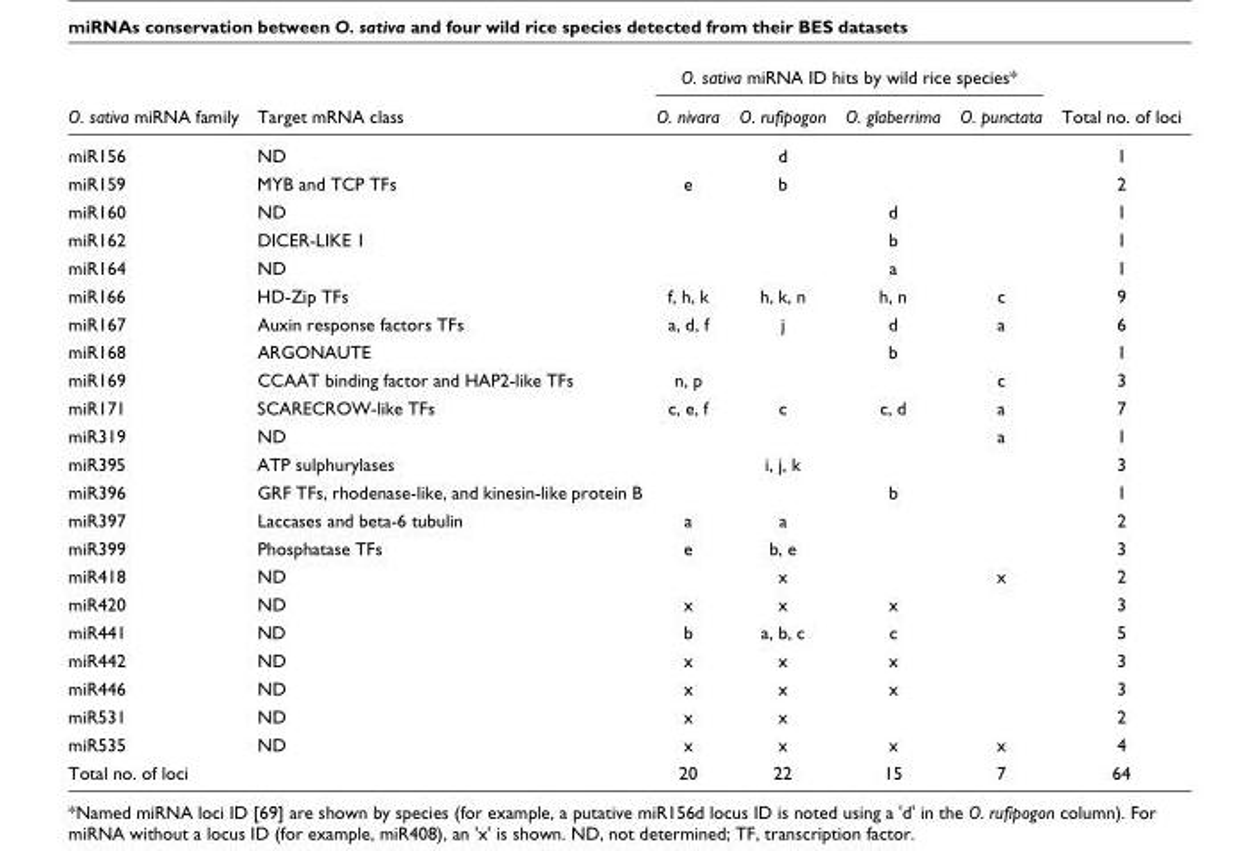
<table><thead><tr><td rowspan="2">O. sativa miRNA family</td><td rowspan="2">Target mRNA class</td><td colspan="4">O. sativa miRNA ID hits by wild rice species*</td><td rowspan="2">Total no. of loci</td></tr><tr><td>O. nivara</td><td>O. rufipogon</td><td>O. glaberrima</td><td>O. punctata</td></tr></thead><tbody><tr><td>miR156</td><td>ND</td><td></td><td>d</td><td></td><td></td><td>1</td></tr><tr><td>miR159</td><td>MYB and TCP TFs</td><td>e</td><td>b</td><td></td><td></td><td>2</td></tr><tr><td>miR160</td><td>ND</td><td></td><td></td><td>d</td><td></td><td>1</td></tr><tr><td>miR162</td><td>DICER-LIKE 1</td><td></td><td></td><td>b</td><td></td><td>1</td></tr><tr><td>miR164</td><td>ND</td><td></td><td></td><td>a</td><td></td><td>1</td></tr><tr><td>miR166</td><td>HD-Zip TFs</td><td>f, h, k</td><td>h, k, n</td><td>h, n</td><td>c</td><td>9</td></tr><tr><td>miR167</td><td>Auxin response factors TFs</td><td>a, d, f</td><td>j</td><td>d</td><td>a</td><td>6</td></tr><tr><td>miR168</td><td>ARGONAUTE</td><td></td><td></td><td>b</td><td></td><td>1</td></tr><tr><td>miR169</td><td>CCAAT binding factor and HAP2-like TFs</td><td>n, p</td><td></td><td></td><td>c</td><td>3</td></tr><tr><td>miR171</td><td>SCARECROW-like TFs</td><td>c, e, f</td><td>c</td><td>c, d</td><td>a</td><td>7</td></tr><tr><td>miR319</td><td>ND</td><td></td><td></td><td></td><td>a</td><td>1</td></tr><tr><td>miR395</td><td>ATP sulphurylases</td><td></td><td>i, j, k</td><td></td><td></td><td>3</td></tr><tr><td>miR396</td><td>GRF TFs, rhodenase-like, and kinesin-like protein B</td><td></td><td></td><td>b</td><td></td><td>1</td></tr><tr><td>miR397</td><td>Laccases and beta-6 tubulin</td><td>a</td><td>a</td><td></td><td></td><td>2</td></tr><tr><td>miR399</td><td>Phosphatase TFs</td><td>e</td><td>b, e</td><td></td><td></td><td>3</td></tr><tr><td>miR418</td><td>ND</td><td></td><td>x</td><td></td><td>x</td><td>2</td></tr><tr><td>miR420</td><td>ND</td><td>x</td><td>x</td><td>x</td><td></td><td>3</td></tr><tr><td>miR441</td><td>ND</td><td>b</td><td>a, b, c</td><td>c</td><td></td><td>5</td></tr><tr><td>miR442</td><td>ND</td><td>x</td><td>x</td><td>x</td><td></td><td>3</td></tr><tr><td>miR446</td><td>ND</td><td>x</td><td>x</td><td>x</td><td></td><td>3</td></tr><tr><td>miR531</td><td>ND</td><td>x</td><td>x</td><td></td><td></td><td>2</td></tr><tr><td>miR535</td><td>ND</td><td>x</td><td>x</td><td>x</td><td>x</td><td>4</td></tr><tr><td>Total no. of loci</td><td></td><td>20</td><td>22</td><td>15</td><td>7</td><td>64</td></tr></tbody></table>